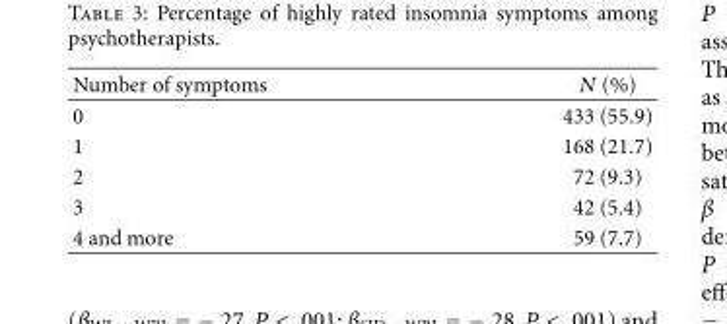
<table><thead><tr><td>Number of symptoms</td><td>N (%)</td></tr></thead><tbody><tr><td>0</td><td>433 (55.9)</td></tr><tr><td>1</td><td>168 (21.7)</td></tr><tr><td>2</td><td>72 (9.3)</td></tr><tr><td>3</td><td>42 (5.4)</td></tr><tr><td>4 and more</td><td>59 (7.7)</td></tr></tbody></table>